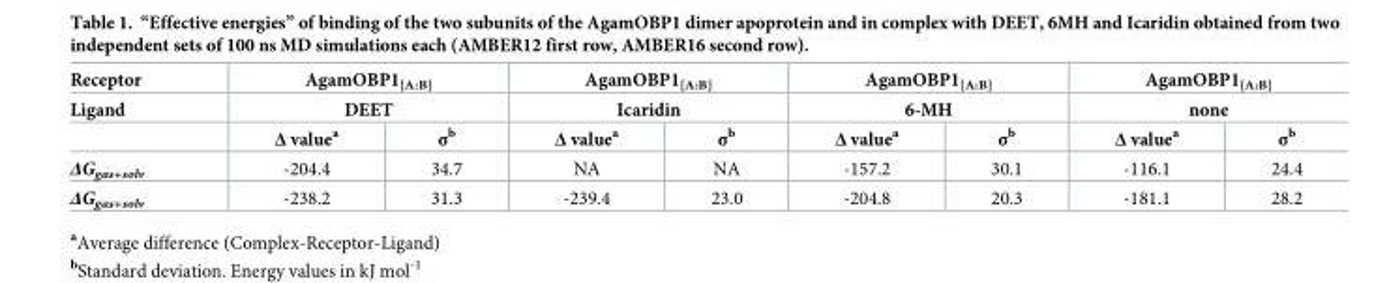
<table><thead><tr><td rowspan="3">Receptor Ligand</td><td rowspan="2" colspan="2">AgamOBP1<sub>[A:B]</sub> DEET</td><td rowspan="2" colspan="2">AgamOBP1<sub>[A:B]</sub> Icaridin</td><td rowspan="2" colspan="2">AgamOBP1<sub>[A:B]</sub> 6-MH</td><td rowspan="2" colspan="2">AgamOBP1<sub>[A:B]</sub> none</td></tr><tr></tr><tr><td>Δ value<sup>a</sup></td><td>σ<sup>b</sup></td><td>Δ value<sup>a</sup></td><td>σ<sup>b</sup></td><td>Δ value<sup>a</sup></td><td>σ<sup>b</sup></td><td>Δ value<sup>a</sup></td><td>σ<sup>b</sup></td></tr></thead><tbody><tr><td>ΔG<sub>gas+solv</sub></td><td>-204.4</td><td>34.7</td><td>NA</td><td>NA</td><td>-157.2</td><td>30.1</td><td>-116.1</td><td>24.4</td></tr><tr><td>ΔG<sub>gas+solv</sub></td><td>-238.2</td><td>31.3</td><td>-239.4</td><td>23.0</td><td>-204.8</td><td>20.3</td><td>-181.1</td><td>28.2</td></tr></tbody></table>